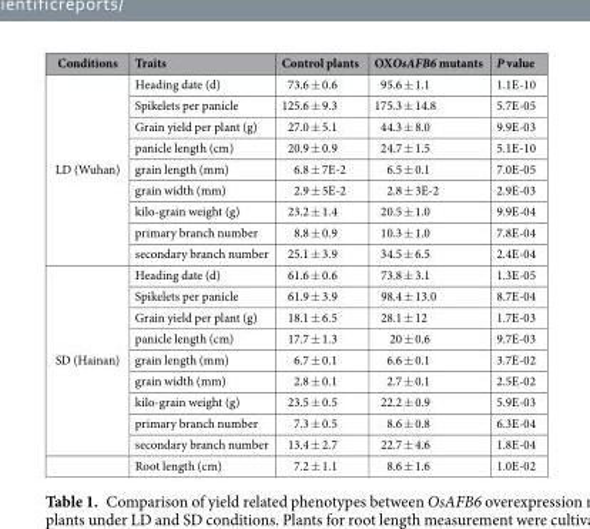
<table><thead><tr><td>Conditions</td><td>Traits</td><td>Control plants</td><td>OXOsAFB6 mutants</td><td>P value</td></tr></thead><tbody><tr><td rowspan="9">LD (Wuhan)</td><td>Heading date (d)</td><td>73.6 ± 0.6</td><td>95.6 ± 1.1</td><td>1.1E-10</td></tr><tr><td>Spikelets per panicle</td><td>125.6 ± 9.3</td><td>175.3 ± 14.8</td><td>5.7E-05</td></tr><tr><td>Grain yield per plant (g)</td><td>27.0 ± 5.1</td><td>44.3 ± 8.0</td><td>9.9E-03</td></tr><tr><td>panicle length (cm)</td><td>20.9 ± 0.9</td><td>24.7 ± 1.5</td><td>5.1E-10</td></tr><tr><td>grain length (mm)</td><td>6.8 ± 7E-2</td><td>6.5 ± 0.1</td><td>7.0E-05</td></tr><tr><td>grain width (mm)</td><td>2.9 ± 5E-2</td><td>2.8 ± 3E-2</td><td>2.9E-03</td></tr><tr><td>kilo-grain weight (g)</td><td>23.2 ± 1.4</td><td>20.5 ± 1.0</td><td>9.9E-04</td></tr><tr><td>primary branch number</td><td>8.8 ± 0.9</td><td>10.3 ± 1.0</td><td>7.8E-04</td></tr><tr><td>secondary branch number</td><td>25.1 ± 3.9</td><td>34.5 ± 6.5</td><td>2.4E-04</td></tr><tr><td rowspan="10">SD (Hainan)</td><td>Heading date (d)</td><td>61.6 ± 0.6</td><td>73.8 ± 3.1</td><td>1.3E-05</td></tr><tr><td>Spikelets per panicle</td><td>61.9 ± 3.9</td><td>98.4 ± 13.0</td><td>8.7E-04</td></tr><tr><td>Grain yield per plant (g)</td><td>18.1 ± 6.5</td><td>28.1 ± 12</td><td>1.7E-03</td></tr><tr><td>panicle length (cm)</td><td>17.7 ± 1.3</td><td>20 ± 0.6</td><td>9.7E-03</td></tr><tr><td>grain length (mm)</td><td>6.7 ± 0.1</td><td>6.6 ± 0.1</td><td>3.7E-02</td></tr><tr><td>grain width (mm)</td><td>2.8 ± 0.1</td><td>2.7 ± 0.1</td><td>2.5E-02</td></tr><tr><td>kilo-grain weight (g)</td><td>23.5 ± 0.5</td><td>22.2 ± 0.9</td><td>5.9E-03</td></tr><tr><td>primary branch number</td><td>7.3 ± 0.5</td><td>8.6 ± 0.8</td><td>6.3E-04</td></tr><tr><td>secondary branch number</td><td>13.4 ± 2.7</td><td>22.7 ± 4.6</td><td>1.8E-04</td></tr><tr><td>Root length (cm)</td><td>7.2 ± 1.1</td><td>8.6 ± 1.6</td><td>1.0E-02</td></tr></tbody></table>